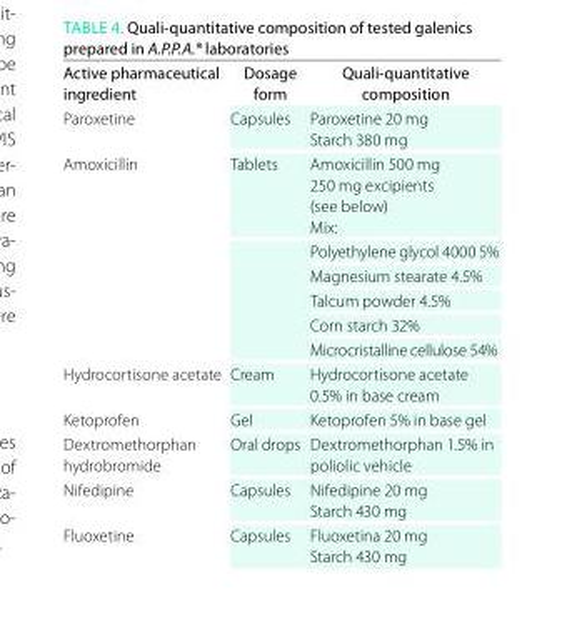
<table><thead><tr><td>Active pharmaceutical ingredient</td><td>dosage form</td><td>Quali-quantitative composition</td></tr></thead><tbody><tr><td>Paroxetine</td><td>Capsules</td><td>Paroxetine 20 mg Starch 380 mg</td></tr><tr><td rowspan="6">Amoxicillin</td><td>Tablets</td><td>Amoxicillin 500 mg 250 mg excipients (see below) Mix:</td></tr><tr><td></td><td>Polyethylene glycol 4000 5%</td></tr><tr><td></td><td>Magnesium stearate 4.5%</td></tr><tr><td></td><td>Talcum powder 4.5%</td></tr><tr><td></td><td>Corn starch 32%</td></tr><tr><td></td><td>Microcristalline cellulose 54%</td></tr><tr><td>Hydrocortisone acetate</td><td>Cream</td><td>Hydrocortisone acetate 0.5% in base cream</td></tr><tr><td>Ketoprofen</td><td>Gel</td><td>Ketoprofen 5% in base gel</td></tr><tr><td>Dextromethorphan hydrobromide</td><td>Oral drops</td><td>Dextromethorphan 1.5% in poliolic vehicle</td></tr><tr><td>Nifedipine</td><td>Capsules</td><td>Nifedipine 20 mg Starch 430 mg</td></tr><tr><td>Fluoxetine</td><td>Capsules</td><td>Fluoxetina 20 mg Starch 430 mg</td></tr></tbody></table>